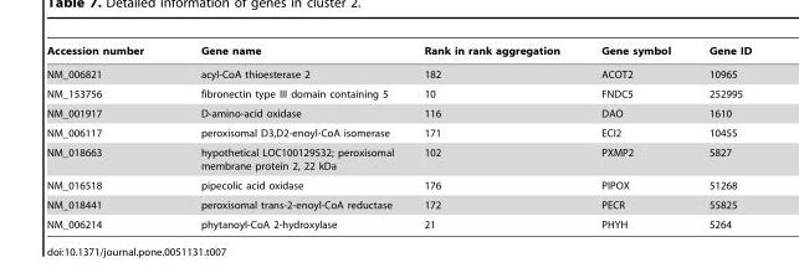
<table><thead><tr><td>Accession number</td><td>Gene name</td><td>Rank in rank aggregation</td><td>Gene symbol</td><td>Gene ID</td></tr></thead><tbody><tr><td>NM_006821</td><td>acyl-CoA thioesterase 2</td><td>182</td><td>ACOT2</td><td>10965</td></tr><tr><td>NM_153756</td><td>fibronectin type III domain containing 5</td><td>10</td><td>FNDC5</td><td>252995</td></tr><tr><td>NM_001917</td><td>D-amino-acid oxidase</td><td>116</td><td>DAO</td><td>1610</td></tr><tr><td>NM_006117</td><td>peroxisomal D3,D2-enoyl-CoA isomerase</td><td>171</td><td>ECI2</td><td>10455</td></tr><tr><td>NM_018663</td><td>hypothetical LOC100129532; peroxisomal membrane protein 2, 22 kDa</td><td>102</td><td>PXMP2</td><td>5827</td></tr><tr><td>NM_016518</td><td>pipecolic acid oxidase</td><td>176</td><td>PIPOX</td><td>51268</td></tr><tr><td>NM_018441</td><td>peroxisomal trans-2-enoyl-CoA reductase</td><td>172</td><td>PECR</td><td>55825</td></tr><tr><td>NM_006214</td><td>phytanoyl-CoA 2-hydroxylase</td><td>21</td><td>PHYH</td><td>5264</td></tr></tbody></table>